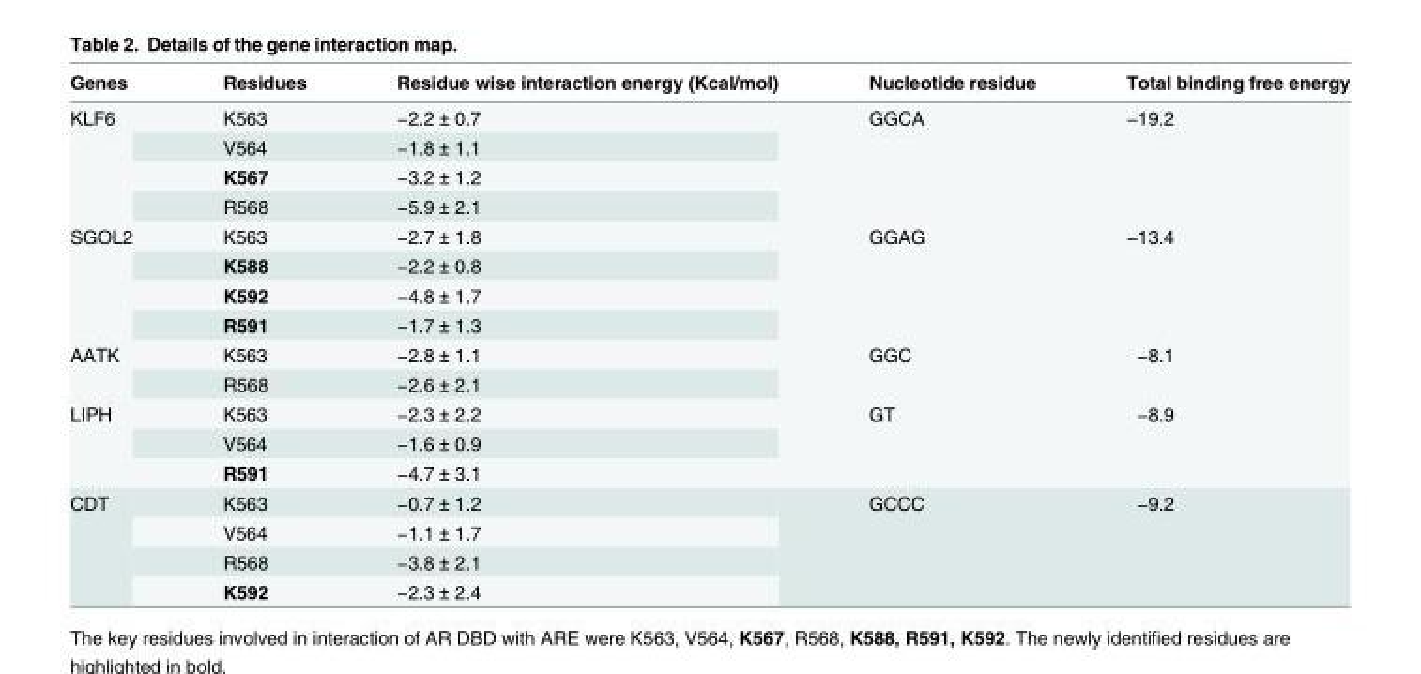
<table><thead><tr><td>Genes</td><td>Residues</td><td>Residue wise interaction energy (Kcal/mol)</td><td>Nucleotide residue</td><td>Total binding free energy</td></tr></thead><tbody><tr><td rowspan="4">KLF6</td><td>K563</td><td>−2.2 ± 0.7</td><td rowspan="4">GGCA</td><td rowspan="4">−19.2</td></tr><tr><td>V564</td><td>−1.8 ± 1.1</td></tr><tr><td>K567</td><td>−3.2 ± 1.2</td></tr><tr><td>R568</td><td>−5.9 ± 2.1</td></tr><tr><td rowspan="4">SGOL2</td><td>K563</td><td>−2.7 ± 1.8</td><td rowspan="4">GGAG</td><td rowspan="4">−13.4</td></tr><tr><td>K588</td><td>−2.2 ± 0.8</td></tr><tr><td>K592</td><td>−4.8 ± 1.7</td></tr><tr><td>R591</td><td>−1.7 ± 1.3</td></tr><tr><td rowspan="2">AATK</td><td>K563</td><td>−2.8 ± 1.1</td><td rowspan="2">GGC</td><td rowspan="2">−8.1</td></tr><tr><td>R568</td><td>−2.6 ± 2.1</td></tr><tr><td rowspan="3">LIPH</td><td>K563</td><td>−2.3 ± 2.2</td><td rowspan="3">GT</td><td rowspan="3">−8.9</td></tr><tr><td>V564</td><td>−1.6 ± 0.9</td></tr><tr><td>R591</td><td>−4.7 ± 3.1</td></tr><tr><td rowspan="4">CDT</td><td>K563</td><td>−0.7 ± 1.2</td><td rowspan="4">GCCC</td><td rowspan="4">−9.2</td></tr><tr><td>V564</td><td>−1.1 ± 1.7</td></tr><tr><td>R568</td><td>−3.8 ± 2.1</td></tr><tr><td>K592</td><td>−2.3 ± 2.4</td></tr></tbody></table>